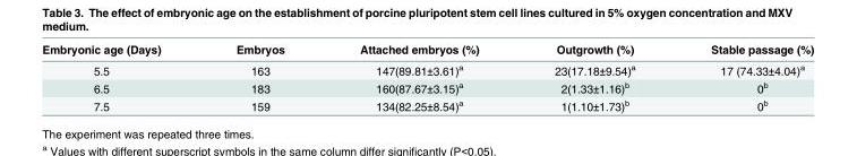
<table><thead><tr><td>Embryonic age (Days)</td><td>Embryos</td><td>Attached embryos (%)</td><td>Outgrowth (%)</td><td>Stable passage (%)</td></tr></thead><tbody><tr><td>5.5</td><td>163</td><td>147(89.81±3.61)<sup>a</sup></td><td>23(17.18±9.54)<sup>a</sup></td><td>17 (74.33±4.04)<sup>a</sup></td></tr><tr><td>6.5</td><td>183</td><td>160(87.67±3.15)<sup>a</sup></td><td>2(1.33±1.16)<sup>b</sup></td><td>0<sup>b</sup></td></tr><tr><td>7.5</td><td>159</td><td>134(82.25±8.54)<sup>a</sup></td><td>1(1.10±1.73)<sup>b</sup></td><td>0<sup>b</sup></td></tr></tbody></table>